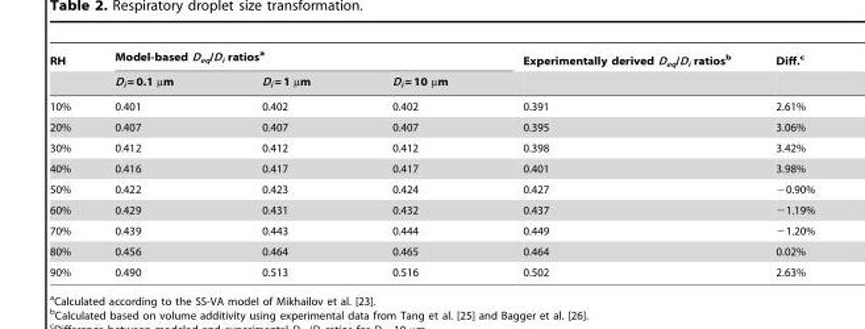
<table><thead><tr><td rowspan="2">RH</td><td colspan="3">Model-based D<sub>eq</sub>/D<sub>i</sub> ratios<sup>a</sup></td><td rowspan="2">Experimentally derived D<sub>eq</sub>/D<sub>i</sub> ratios<sup>b</sup></td><td rowspan="2">Diff.<sup>c</sup></td></tr><tr><td>D<sub>i</sub> = 0.1 µm</td><td>D<sub>i</sub> = 1 µm</td><td>D<sub>i</sub> = 10 µm</td></tr></thead><tbody><tr><td>10%</td><td>0.401</td><td>0.402</td><td>0.402</td><td>0.391</td><td>2.61%</td></tr><tr><td>20%</td><td>0.407</td><td>0.407</td><td>0.407</td><td>0.395</td><td>3.06%</td></tr><tr><td>30%</td><td>0.412</td><td>0.412</td><td>0.412</td><td>0.398</td><td>3.42%</td></tr><tr><td>40%</td><td>0.416</td><td>0.417</td><td>0.417</td><td>0.401</td><td>3.98%</td></tr><tr><td>50%</td><td>0.422</td><td>0.423</td><td>0.424</td><td>0.427</td><td>−0.90%</td></tr><tr><td>60%</td><td>0.429</td><td>0.431</td><td>0.432</td><td>0.437</td><td>−1.19%</td></tr><tr><td>70%</td><td>0.439</td><td>0.443</td><td>0.444</td><td>0.449</td><td>−1.20%</td></tr><tr><td>80%</td><td>0.456</td><td>0.464</td><td>0.465</td><td>0.464</td><td>0.02%</td></tr><tr><td>90%</td><td>0.490</td><td>0.513</td><td>0.516</td><td>0.502</td><td>2.63%</td></tr></tbody></table>